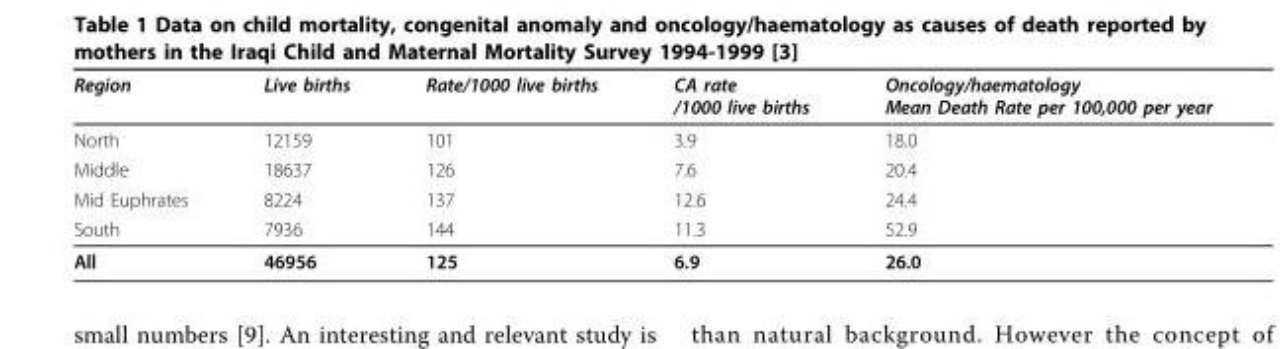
<table><thead><tr><td>Region</td><td>Live births</td><td>Rate/1000 live births</td><td>CA rate /1000 live births</td><td>Oncology/haematology Mean Death Rate per 100,000 per year</td></tr></thead><tbody><tr><td>North</td><td>12159</td><td>101</td><td>3.9</td><td>18.0</td></tr><tr><td>Middle</td><td>18637</td><td>126</td><td>7.6</td><td>20.4</td></tr><tr><td>Mid Euphrates</td><td>8224</td><td>137</td><td>12.6</td><td>24.4</td></tr><tr><td>South</td><td>7936</td><td>144</td><td>11.3</td><td>52.9</td></tr><tr><td>All</td><td>46956</td><td>125</td><td>6.9</td><td>26.0</td></tr></tbody></table>